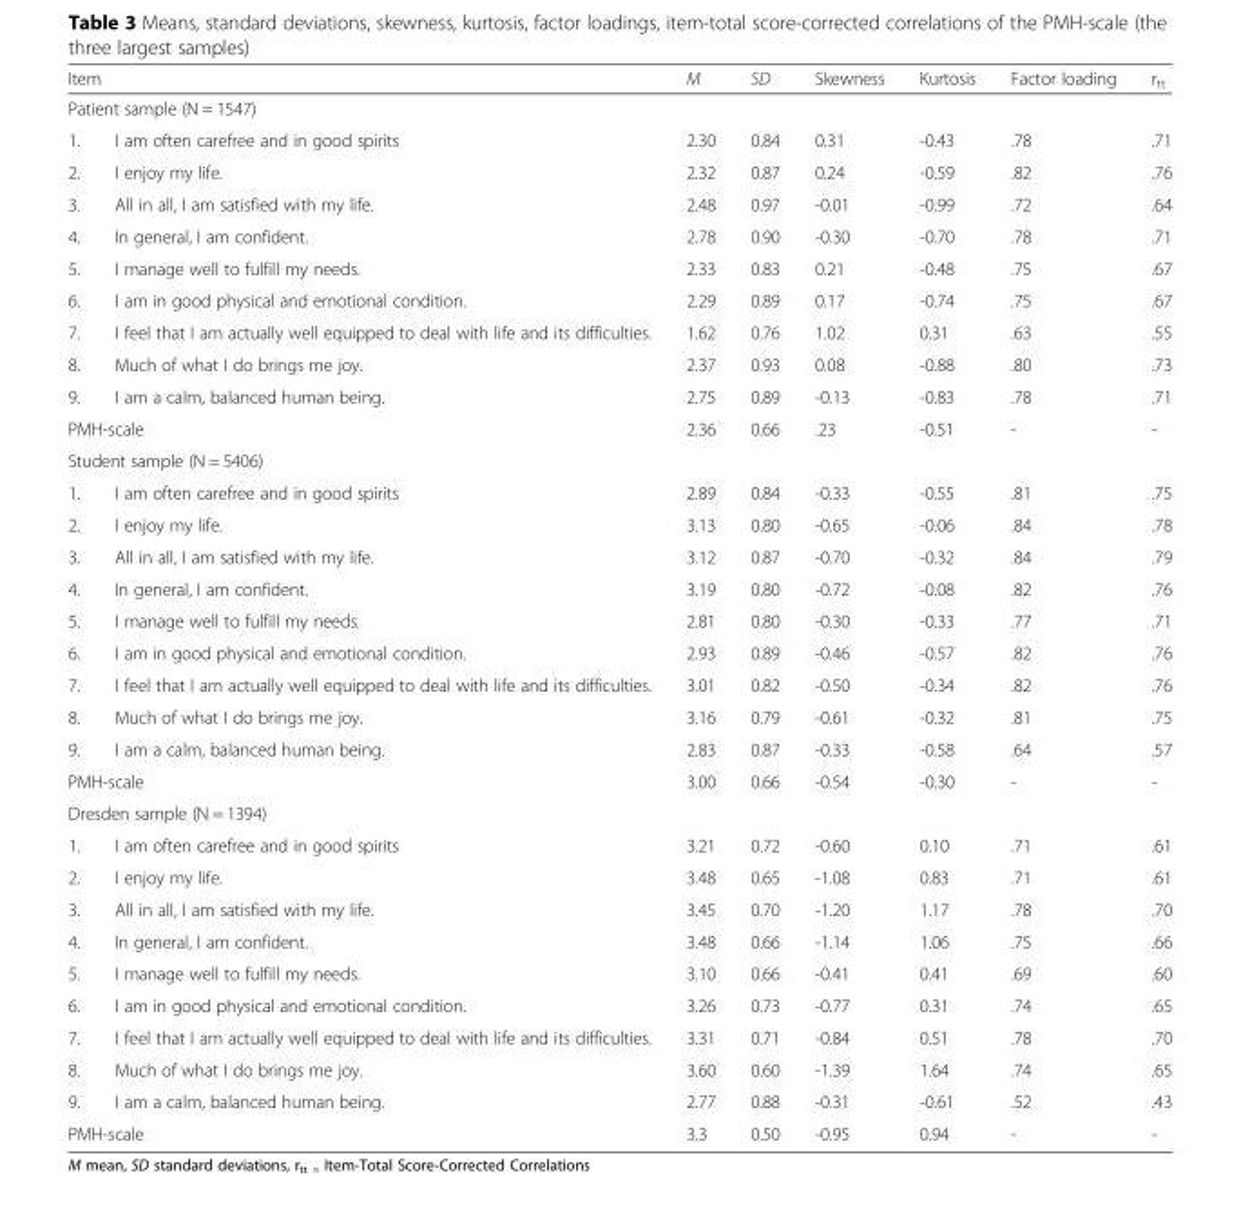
<table><thead><tr><td colspan="2">Item</td><td>M</td><td>SD</td><td>Skewness</td><td>Kurtosis</td><td>Factor loading</td><td>r<sub>tt</sub></td></tr><tr><td colspan="8">Patient sample (N = 1547)</td></tr><tr><td>1.</td><td>I am often carefree and in good spirits</td><td>2.30</td><td>0.84</td><td>0.31</td><td>-0.43</td><td>.78</td><td>.71</td></tr></thead><tbody><tr><td>2.</td><td>I enjoy my life.</td><td>2.32</td><td>0.87</td><td>0.24</td><td>-0.59</td><td>.82</td><td>.76</td></tr><tr><td>3.</td><td>All in all, I am satisfied with my life.</td><td>2.48</td><td>0.97</td><td>-0.01</td><td>-0.99</td><td>.72</td><td>.64</td></tr><tr><td>4.</td><td>In general, I am confident.</td><td>2.78</td><td>0.90</td><td>-0.30</td><td>-0.70</td><td>.78</td><td>.71</td></tr><tr><td>5.</td><td>I manage well to fulfill my needs.</td><td>2.33</td><td>0.83</td><td>0.21</td><td>-0.48</td><td>.75</td><td>.67</td></tr><tr><td>6.</td><td>I am in good physical and emotional condition.</td><td>2.29</td><td>0.89</td><td>0.17</td><td>-0.74</td><td>.75</td><td>.67</td></tr><tr><td>7.</td><td>I feel that I am actually well equipped to deal with life and its difficulties.</td><td>1.62</td><td>0.76</td><td>1.02</td><td>0.31</td><td>.63</td><td>.55</td></tr><tr><td>8.</td><td>Much of what I do brings me joy.</td><td>2.37</td><td>0.93</td><td>0.08</td><td>-0.88</td><td>.80</td><td>.73</td></tr><tr><td>9.</td><td>I am a calm, balanced human being.</td><td>2.75</td><td>0.89</td><td>-0.13</td><td>-0.83</td><td>.78</td><td>.71</td></tr><tr><td colspan="2">PMH-scale</td><td>2.36</td><td>0.66</td><td>.23</td><td>-0.51</td><td>-</td><td>-</td></tr><tr><td colspan="8">Student sample (N = 5406)</td></tr><tr><td>1.</td><td>I am often carefree and in good spirits</td><td>2.89</td><td>0.84</td><td>-0.33</td><td>-0.55</td><td>.81</td><td>.75</td></tr><tr><td>2.</td><td>I enjoy my life.</td><td>3.13</td><td>0.80</td><td>-0.65</td><td>-0.06</td><td>.84</td><td>.78</td></tr><tr><td>3.</td><td>All in all, I am satisfied with my life.</td><td>3.12</td><td>0.87</td><td>-0.70</td><td>-0.32</td><td>.84</td><td>.79</td></tr><tr><td>4.</td><td>In general, I am confident.</td><td>3.19</td><td>0.80</td><td>-0.72</td><td>-0.08</td><td>.82</td><td>.76</td></tr><tr><td>5.</td><td>I manage well to fulfill my needs.</td><td>2.81</td><td>0.80</td><td>-0.30</td><td>-0.33</td><td>.77</td><td>.71</td></tr><tr><td>6.</td><td>I am in good physical and emotional condition.</td><td>2.93</td><td>0.89</td><td>-0.46</td><td>-0.57</td><td>.82</td><td>.76</td></tr><tr><td>7.</td><td>I feel that I am actually well equipped to deal with life and its difficulties.</td><td>3.01</td><td>0.82</td><td>-0.50</td><td>-0.34</td><td>.82</td><td>.76</td></tr><tr><td>8.</td><td>Much of what I do brings me joy.</td><td>3.16</td><td>0.79</td><td>-0.61</td><td>-0.32</td><td>.81</td><td>.75</td></tr><tr><td>9.</td><td>I am a calm, balanced human being.</td><td>2.83</td><td>0.87</td><td>-0.33</td><td>-0.58</td><td>.64</td><td>.57</td></tr><tr><td colspan="2">PMH-scale</td><td>3.00</td><td>0.66</td><td>-0.54</td><td>-0.30</td><td>-</td><td>-</td></tr><tr><td colspan="8">Dresden sample (N = 1394)</td></tr><tr><td>1.</td><td>I am often carefree and in good spirits</td><td>3.21</td><td>0.72</td><td>-0.60</td><td>0.10</td><td>.71</td><td>.61</td></tr><tr><td>2.</td><td>I enjoy my life.</td><td>3.48</td><td>0.65</td><td>-1.08</td><td>0.83</td><td>.71</td><td>.61</td></tr><tr><td>3.</td><td>All in all, I am satisfied with my life.</td><td>3.45</td><td>0.70</td><td>-1.20</td><td>1.17</td><td>.78</td><td>.70</td></tr><tr><td>4.</td><td>In general, I am confident.</td><td>3.48</td><td>0.66</td><td>-1.14</td><td>1.06</td><td>.75</td><td>.66</td></tr><tr><td>5.</td><td>I manage well to fulfill my needs.</td><td>3.10</td><td>0.66</td><td>-0.41</td><td>0.41</td><td>.69</td><td>.60</td></tr><tr><td>6.</td><td>I am in good physical and emotional condition.</td><td>3.26</td><td>0.73</td><td>-0.77</td><td>0.31</td><td>.74</td><td>.65</td></tr><tr><td>7.</td><td>I feel that I am actually well equipped to deal with life and its difficulties.</td><td>3.31</td><td>0.71</td><td>-0.84</td><td>0.51</td><td>.78</td><td>.70</td></tr><tr><td>8.</td><td>Much of what I do brings me joy.</td><td>3.60</td><td>0.60</td><td>-1.39</td><td>1.64</td><td>.74</td><td>.65</td></tr><tr><td>9.</td><td>I am a calm, balanced human being.</td><td>2.77</td><td>0.88</td><td>-0.31</td><td>-0.61</td><td>.52</td><td>.43</td></tr><tr><td colspan="2">PMH-scale</td><td>3.3</td><td>0.50</td><td>-0.95</td><td>0.94</td><td>-</td><td>-</td></tr></tbody></table>